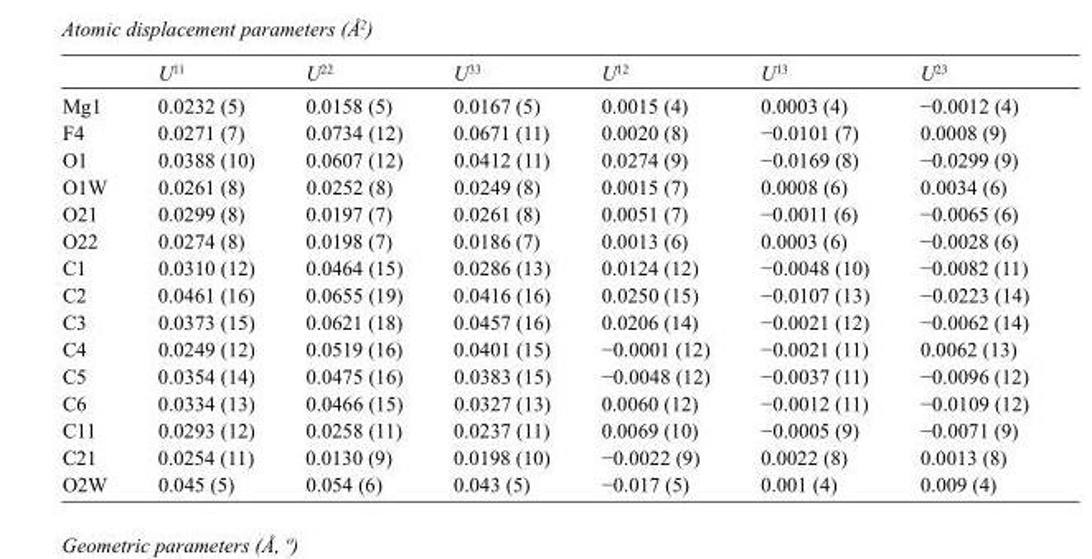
<table><thead><tr><td></td><td>U<sup>11</sup></td><td>U<sup>22</sup></td><td>U<sup>33</sup></td><td>U<sup>12</sup></td><td>U<sup>13</sup></td><td>U<sup>23</sup></td></tr></thead><tbody><tr><td>Mg1</td><td>0.0232 (5)</td><td>0.0158 (5)</td><td>0.0167 (5)</td><td>0.0015 (4)</td><td>0.0003 (4)</td><td>−0.0012 (4)</td></tr><tr><td>F4</td><td>0.0271 (7)</td><td>0.0734 (12)</td><td>0.0671 (11)</td><td>0.0020 (8)</td><td>−0.0101 (7)</td><td>0.0008 (9)</td></tr><tr><td>O1</td><td>0.0388 (10)</td><td>0.0607 (12)</td><td>0.0412 (11)</td><td>0.0274 (9)</td><td>−0.0169 (8)</td><td>−0.0299 (9)</td></tr><tr><td>O1W</td><td>0.0261 (8)</td><td>0.0252 (8)</td><td>0.0249 (8)</td><td>0.0015 (7)</td><td>0.0008 (6)</td><td>0.0034 (6)</td></tr><tr><td>O21</td><td>0.0299 (8)</td><td>0.0197 (7)</td><td>0.0261 (8)</td><td>0.0051 (7)</td><td>−0.0011 (6)</td><td>−0.0065 (6)</td></tr><tr><td>O22</td><td>0.0274 (8)</td><td>0.0198 (7)</td><td>0.0186 (7)</td><td>0.0013 (6)</td><td>0.0003 (6)</td><td>−0.0028 (6)</td></tr><tr><td>C1</td><td>0.0310 (12)</td><td>0.0464 (15)</td><td>0.0286 (13)</td><td>0.0124 (12)</td><td>−0.0048 (10)</td><td>−0.0082 (11)</td></tr><tr><td>C2</td><td>0.0461 (16)</td><td>0.0655 (19)</td><td>0.0416 (16)</td><td>0.0250 (15)</td><td>−0.0107 (13)</td><td>−0.0223 (14)</td></tr><tr><td>C3</td><td>0.0373 (15)</td><td>0.0621 (18)</td><td>0.0457 (16)</td><td>0.0206 (14)</td><td>−0.0021 (12)</td><td>−0.0062 (14)</td></tr><tr><td>C4</td><td>0.0249 (12)</td><td>0.0519 (16)</td><td>0.0401 (15)</td><td>−0.0001 (12)</td><td>−0.0021 (11)</td><td>0.0062 (13)</td></tr><tr><td>C5</td><td>0.0354 (14)</td><td>0.0475 (16)</td><td>0.0383 (15)</td><td>−0.0048 (12)</td><td>−0.0037 (11)</td><td>−0.0096 (12)</td></tr><tr><td>C6</td><td>0.0334 (13)</td><td>0.0466 (15)</td><td>0.0327 (13)</td><td>0.0060 (12)</td><td>−0.0012 (11)</td><td>−0.0109 (12)</td></tr><tr><td>C11</td><td>0.0293 (12)</td><td>0.0258 (11)</td><td>0.0237 (11)</td><td>0.0069 (10)</td><td>−0.0005 (9)</td><td>−0.0071 (9)</td></tr><tr><td>C21</td><td>0.0254 (11)</td><td>0.0130 (9)</td><td>0.0198 (10)</td><td>−0.0022 (9)</td><td>0.0022 (8)</td><td>0.0013 (8)</td></tr><tr><td>O2W</td><td>0.045 (5)</td><td>0.054 (6)</td><td>0.043 (5)</td><td>−0.017 (5)</td><td>0.001 (4)</td><td>0.009 (4)</td></tr></tbody></table>